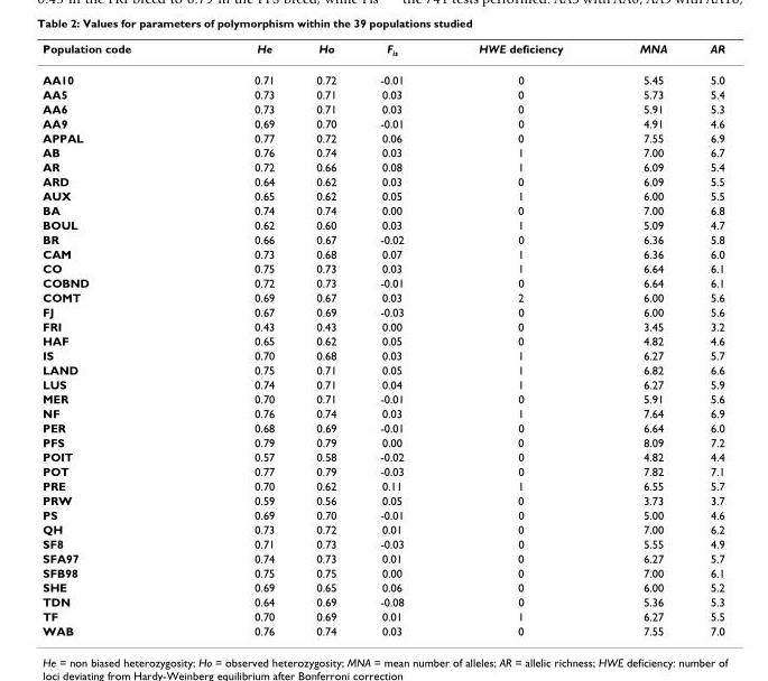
<table><thead><tr><td>Population code</td><td>He</td><td>Ho</td><td>F<sub>is</sub></td><td>HWE deficiency</td><td>MNA</td><td>AR</td></tr></thead><tbody><tr><td>AA10</td><td>0.71</td><td>0.72</td><td>-0.01</td><td>0</td><td>5.45</td><td>5.0</td></tr><tr><td>AA5</td><td>0.73</td><td>0.71</td><td>0.03</td><td>0</td><td>5.73</td><td>5.4</td></tr><tr><td>AA6</td><td>0.73</td><td>0.71</td><td>0.03</td><td>0</td><td>5.91</td><td>5.3</td></tr><tr><td>AA9</td><td>0.69</td><td>0.70</td><td>-0.01</td><td>0</td><td>4.91</td><td>4.6</td></tr><tr><td>APPAL</td><td>0.77</td><td>0.72</td><td>0.06</td><td>0</td><td>7.55</td><td>6.9</td></tr><tr><td>AB</td><td>0.76</td><td>0.74</td><td>0.03</td><td>1</td><td>7.00</td><td>6.7</td></tr><tr><td>AR</td><td>0.72</td><td>0.66</td><td>0.08</td><td>1</td><td>6.09</td><td>5.4</td></tr><tr><td>ARD</td><td>0.64</td><td>0.62</td><td>0.03</td><td>0</td><td>6.09</td><td>5.5</td></tr><tr><td>AUX</td><td>0.65</td><td>0.62</td><td>0.05</td><td>1</td><td>6.00</td><td>5.5</td></tr><tr><td>BA</td><td>0.74</td><td>0.74</td><td>0.00</td><td>0</td><td>7.00</td><td>6.8</td></tr><tr><td>BOUL</td><td>0.62</td><td>0.60</td><td>0.03</td><td>1</td><td>5.09</td><td>4.7</td></tr><tr><td>BR</td><td>0.66</td><td>0.67</td><td>-0.02</td><td>0</td><td>6.36</td><td>5.8</td></tr><tr><td>CAM</td><td>0.73</td><td>0.68</td><td>0.07</td><td>1</td><td>6.36</td><td>6.0</td></tr><tr><td>CO</td><td>0.75</td><td>0.73</td><td>0.03</td><td>1</td><td>6.64</td><td>6.1</td></tr><tr><td>COBND</td><td>0.72</td><td>0.73</td><td>-0.01</td><td>0</td><td>6.64</td><td>6.1</td></tr><tr><td>COMT</td><td>0.69</td><td>0.67</td><td>0.03</td><td>2</td><td>6.00</td><td>5.6</td></tr><tr><td>FJ</td><td>0.67</td><td>0.69</td><td>-0.03</td><td>0</td><td>6.00</td><td>5.6</td></tr><tr><td>FRI</td><td>0.43</td><td>0.43</td><td>0.00</td><td>0</td><td>3.45</td><td>3.2</td></tr><tr><td>HAF</td><td>0.65</td><td>0.62</td><td>0.05</td><td>0</td><td>4.82</td><td>4.6</td></tr><tr><td>IS</td><td>0.70</td><td>0.68</td><td>0.03</td><td>1</td><td>6.27</td><td>5.7</td></tr><tr><td>LAND</td><td>0.75</td><td>0.71</td><td>0.05</td><td>1</td><td>6.82</td><td>6.6</td></tr><tr><td>LUS</td><td>0.74</td><td>0.71</td><td>0.04</td><td>1</td><td>6.27</td><td>5.9</td></tr><tr><td>MER</td><td>0.70</td><td>0.71</td><td>-0.01</td><td>0</td><td>5.91</td><td>5.6</td></tr><tr><td>NF</td><td>0.76</td><td>0.74</td><td>0.03</td><td>1</td><td>7.64</td><td>6.9</td></tr><tr><td>PER</td><td>0.68</td><td>0.69</td><td>-0.01</td><td>0</td><td>6.64</td><td>6.0</td></tr><tr><td>PFS</td><td>0.79</td><td>0.79</td><td>0.00</td><td>0</td><td>8.09</td><td>7.2</td></tr><tr><td>POIT</td><td>0.57</td><td>0.58</td><td>-0.02</td><td>0</td><td>4.82</td><td>4.4</td></tr><tr><td>POT</td><td>0.77</td><td>0.79</td><td>-0.03</td><td>0</td><td>7.82</td><td>7.1</td></tr><tr><td>PRE</td><td>0.70</td><td>0.62</td><td>0.11</td><td>1</td><td>6.55</td><td>5.7</td></tr><tr><td>PRW</td><td>0.59</td><td>0.56</td><td>0.05</td><td>0</td><td>3.73</td><td>3.7</td></tr><tr><td>PS</td><td>0.69</td><td>0.70</td><td>-0.01</td><td>0</td><td>5.00</td><td>4.6</td></tr><tr><td>QH</td><td>0.73</td><td>0.72</td><td>0.01</td><td>0</td><td>7.00</td><td>6.2</td></tr><tr><td>SF8</td><td>0.71</td><td>0.73</td><td>-0.03</td><td>0</td><td>5.55</td><td>4.9</td></tr><tr><td>SFA97</td><td>0.74</td><td>0.73</td><td>0.01</td><td>0</td><td>6.27</td><td>5.7</td></tr><tr><td>SFB98</td><td>0.75</td><td>0.75</td><td>0.00</td><td>0</td><td>7.00</td><td>6.1</td></tr><tr><td>SHE</td><td>0.69</td><td>0.65</td><td>0.06</td><td>0</td><td>6.00</td><td>5.2</td></tr><tr><td>TDN</td><td>0.64</td><td>0.69</td><td>-0.08</td><td>0</td><td>5.36</td><td>5.3</td></tr><tr><td>TF</td><td>0.70</td><td>0.69</td><td>0.01</td><td>1</td><td>6.27</td><td>5.5</td></tr><tr><td>WAB</td><td>0.76</td><td>0.74</td><td>0.03</td><td>0</td><td>7.55</td><td>7.0</td></tr></tbody></table>